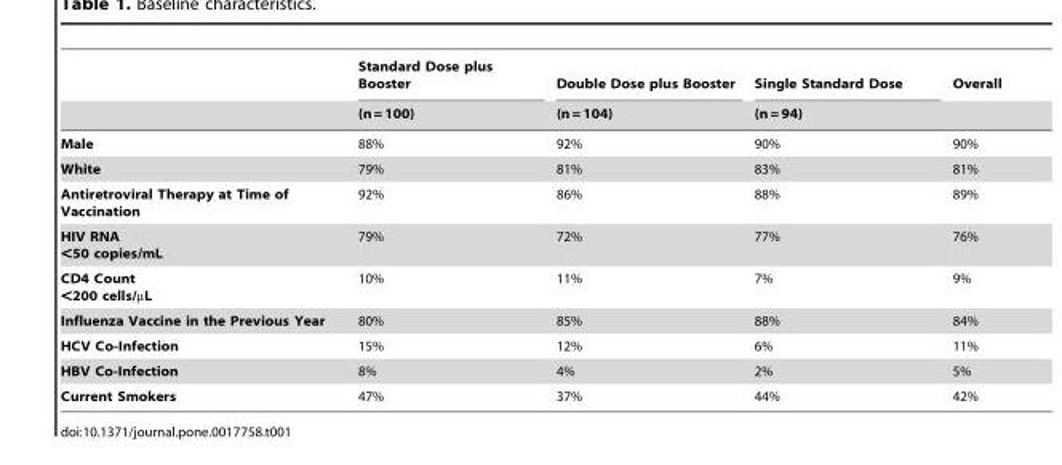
<table><thead><tr><td rowspan="2"></td><td rowspan="2">Standard Dose plus Booster (n = 100)</td><td rowspan="2">Double Dose plus Booster (n = 104)</td><td rowspan="2">Single Standard Dose (n = 94)</td><td rowspan="2">Overall</td></tr><tr></tr></thead><tbody><tr><td>Male</td><td>88%</td><td>92%</td><td>90%</td><td>90%</td></tr><tr><td>White</td><td>79%</td><td>81%</td><td>83%</td><td>81%</td></tr><tr><td>Antiretroviral Therapy at Time of Vaccination</td><td>92%</td><td>86%</td><td>88%</td><td>89%</td></tr><tr><td>HIV RNA &lt;50 copies/mL</td><td>79%</td><td>72%</td><td>77%</td><td>76%</td></tr><tr><td>CD4 Count &lt;200 cells/µL</td><td>10%</td><td>11%</td><td>7%</td><td>9%</td></tr><tr><td>Influenza Vaccine in the Previous Year</td><td>80%</td><td>85%</td><td>88%</td><td>84%</td></tr><tr><td>HCV Co-Infection</td><td>15%</td><td>12%</td><td>6%</td><td>11%</td></tr><tr><td>HBV Co-Infection</td><td>8%</td><td>4%</td><td>2%</td><td>5%</td></tr><tr><td>Current Smokers</td><td>47%</td><td>37%</td><td>44%</td><td>42%</td></tr></tbody></table>